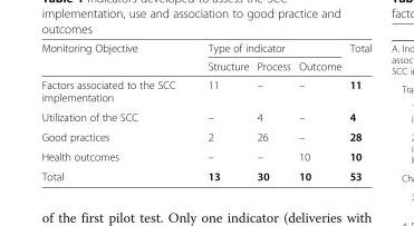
<table><thead><tr><td rowspan="2">Monitoring Objective</td><td colspan="3">Type of indicator</td><td rowspan="2">Total</td></tr><tr><td>Structure</td><td>Process</td><td>Outcome</td></tr></thead><tbody><tr><td>Factors associated to the SCC implementation</td><td>11</td><td>–</td><td>–</td><td>11</td></tr><tr><td>Utilization of the SCC</td><td>–</td><td>4</td><td>–</td><td>4</td></tr><tr><td>Good practices</td><td>2</td><td>26</td><td>–</td><td>28</td></tr><tr><td>Health outcomes</td><td>–</td><td>–</td><td>10</td><td>10</td></tr><tr><td>Total</td><td>13</td><td>30</td><td>10</td><td>53</td></tr></tbody></table>